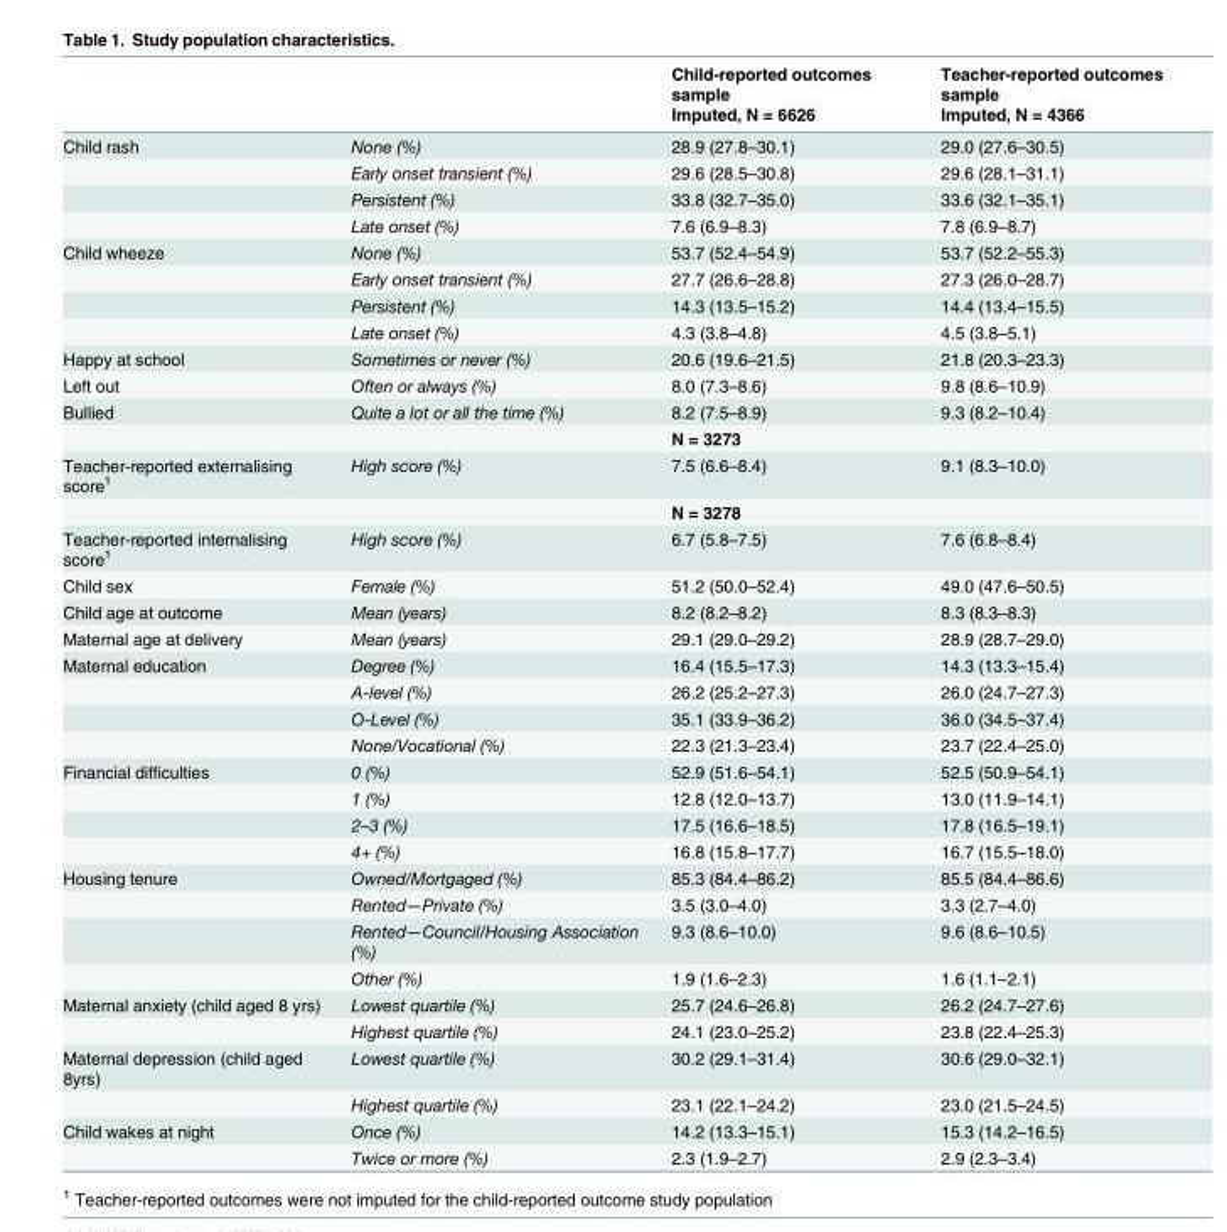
<table><thead><tr><td rowspan="2"></td><td rowspan="2"></td><td rowspan="2">Child-reported outcomes sample Imputed, N = 6626</td><td rowspan="2">Teacher-reported outcomes sample Imputed, N = 4366</td></tr><tr></tr></thead><tbody><tr><td rowspan="4">Child rash</td><td>None (%)</td><td>28.9 (27.8–30.1)</td><td>29.0 (27.6–30.5)</td></tr><tr><td>Early onset transient (%)</td><td>29.6 (28.5–30.8)</td><td>29.6 (28.1–31.1)</td></tr><tr><td>Persistent (%)</td><td>33.8 (32.7–35.0)</td><td>33.6 (32.1–35.1)</td></tr><tr><td>Late onset (%)</td><td>7.6 (6.9–8.3)</td><td>7.8 (6.9–8.7)</td></tr><tr><td rowspan="4">Child wheeze</td><td>None (%)</td><td>53.7 (52.4–54.9)</td><td>53.7 (52.2–55.3)</td></tr><tr><td>Early onset transient (%)</td><td>27.7 (26.6–28.8)</td><td>27.3 (26.0–28.7)</td></tr><tr><td>Persistent (%)</td><td>14.3 (13.5–15.2)</td><td>14.4 (13.4–15.5)</td></tr><tr><td>Late onset (%)</td><td>4.3 (3.8–4.8)</td><td>4.5 (3.8–5.1)</td></tr><tr><td>Happy at school</td><td>Sometimes or never (%)</td><td>20.6 (19.6–21.5)</td><td>21.8 (20.3–23.3)</td></tr><tr><td>Left out</td><td>Often or always (%)</td><td>8.0 (7.3–8.6)</td><td>9.8 (8.6–10.9)</td></tr><tr><td rowspan="2">Bullied</td><td>Quite a lot or all the time (%)</td><td>8.2 (7.5–8.9)</td><td>9.3 (8.2–10.4)</td></tr><tr><td></td><td>N = 3273</td><td></td></tr><tr><td rowspan="2">Teacher-reported externalising score<sup>1</sup></td><td>High score (%)</td><td>7.5 (6.6–8.4)</td><td>9.1 (8.3–10.0)</td></tr><tr><td></td><td>N = 3278</td><td></td></tr><tr><td>Teacher-reported internalising score<sup>1</sup></td><td>High score (%)</td><td>6.7 (5.8–7.5)</td><td>7.6 (6.8–8.4)</td></tr><tr><td>Child sex</td><td>Female (%)</td><td>51.2 (50.0–52.4)</td><td>49.0 (47.6–50.5)</td></tr><tr><td>Child age at outcome</td><td>Mean (years)</td><td>8.2 (8.2–8.2)</td><td>8.3 (8.3–8.3)</td></tr><tr><td>Maternal age at delivery</td><td>Mean (years)</td><td>29.1 (29.0–29.2)</td><td>28.9 (28.7–29.0)</td></tr><tr><td rowspan="4">Maternal education</td><td>Degree (%)</td><td>16.4 (15.5–17.3)</td><td>14.3 (13.3–15.4)</td></tr><tr><td>A-level (%)</td><td>26.2 (25.2–27.3)</td><td>26.0 (24.7–27.3)</td></tr><tr><td>O-Level (%)</td><td>35.1 (33.9–36.2)</td><td>36.0 (34.5–37.4)</td></tr><tr><td>None/Vocational (%)</td><td>22.3 (21.3–23.4)</td><td>23.7 (22.4–25.0)</td></tr><tr><td rowspan="4">Financial difficulties</td><td>0 (%)</td><td>52.9 (51.6–54.1)</td><td>52.5 (50.9–54.1)</td></tr><tr><td>1 (%)</td><td>12.8 (12.0–13.7)</td><td>13.0 (11.9–14.1)</td></tr><tr><td>2–3 (%)</td><td>17.5 (16.6–18.5)</td><td>17.8 (16.5–19.1)</td></tr><tr><td>4+ (%)</td><td>16.8 (15.8–17.7)</td><td>16.7 (15.5–18.0)</td></tr><tr><td rowspan="4">Housing tenure</td><td>Owned/Mortgaged (%)</td><td>85.3 (84.4–86.2)</td><td>85.5 (84.4–86.6)</td></tr><tr><td>Rented—Private (%)</td><td>3.5 (3.0–4.0)</td><td>3.3 (2.7–4.0)</td></tr><tr><td>Rented—Council/Housing Association (%)</td><td>9.3 (8.6–10.0)</td><td>9.6 (8.6–10.5)</td></tr><tr><td>Other (%)</td><td>1.9 (1.6–2.3)</td><td>1.6 (1.1–2.1)</td></tr><tr><td rowspan="2">Maternal anxiety (child aged 8 yrs)</td><td>Lowest quartile (%)</td><td>25.7 (24.6–26.8)</td><td>26.2 (24.7–27.6)</td></tr><tr><td>Highest quartile (%)</td><td>24.1 (23.0–25.2)</td><td>23.8 (22.4–25.3)</td></tr><tr><td rowspan="2">Maternal depression (child aged 8yrs)</td><td>Lowest quartile (%)</td><td>30.2 (29.1–31.4)</td><td>30.6 (29.0–32.1)</td></tr><tr><td>Highest quartile (%)</td><td>23.1 (22.1–24.2)</td><td>23.0 (21.5–24.5)</td></tr><tr><td rowspan="2">Child wakes at night</td><td>Once (%)</td><td>14.2 (13.3–15.1)</td><td>15.3 (14.2–16.5)</td></tr><tr><td>Twice or more (%)</td><td>2.3 (1.9–2.7)</td><td>2.9 (2.3–3.4)</td></tr></tbody></table>